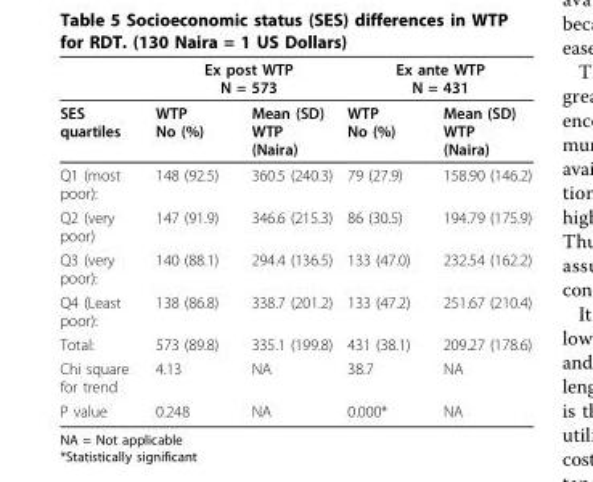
<table><thead><tr><td rowspan="2">SES quartiles</td><td colspan="2">Ex post WTP N = 573</td><td colspan="2">Ex ante WTP N = 431</td></tr><tr><td>WTP No (%)</td><td>Mean (SD) WTP (Naira)</td><td>WTP No (%)</td><td>Mean (SD) WTP (Naira)</td></tr></thead><tbody><tr><td>Q1 (most poor):</td><td>148 (92.5)</td><td>360.5 (240.3)</td><td>79 (27.9)</td><td>158.90 (146.2)</td></tr><tr><td>Q2 (very poor)</td><td>147 (91.9)</td><td>346.6 (215.3)</td><td>86 (30.5)</td><td>194.79 (175.9)</td></tr><tr><td>Q3 (very poor):</td><td>140 (88.1)</td><td>294.4 (136.5)</td><td>133 (47.0)</td><td>232.54 (162.2)</td></tr><tr><td>Q4 (Least poor):</td><td>138 (86.8)</td><td>338.7 (201.2)</td><td>133 (47.2)</td><td>251.67 (210.4)</td></tr><tr><td>Total:</td><td>573 (89.8)</td><td>335.1 (199.8)</td><td>431 (38.1)</td><td>209.27 (178.6)</td></tr><tr><td>Chi square for trend</td><td>4.13</td><td>NA</td><td>38.7</td><td>NA</td></tr><tr><td>P value</td><td>0.248</td><td>NA</td><td>0.000*</td><td>NA</td></tr></tbody></table>